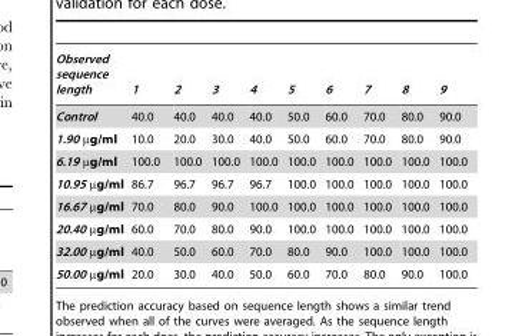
<table><thead><tr><td>Observed sequence length</td><td>1</td><td>2</td><td>3</td><td>4</td><td>5</td><td>6</td><td>7</td><td>8</td><td>9</td></tr></thead><tbody><tr><td>Control</td><td>40.0</td><td>40.0</td><td>40.0</td><td>40.0</td><td>50.0</td><td>60.0</td><td>70.0</td><td>80.0</td><td>90.0</td></tr><tr><td>1.90 µg/ml</td><td>10.0</td><td>20.0</td><td>30.0</td><td>40.0</td><td>50.0</td><td>60.0</td><td>70.0</td><td>80.0</td><td>90.0</td></tr><tr><td>6.19 µg/ml</td><td>100.0</td><td>100.0</td><td>100.0</td><td>100.0</td><td>100.0</td><td>100.0</td><td>100.0</td><td>100.0</td><td>100.0</td></tr><tr><td>10.95 µg/ml</td><td>86.7</td><td>96.7</td><td>96.7</td><td>96.7</td><td>100.0</td><td>100.0</td><td>100.0</td><td>100.0</td><td>100.0</td></tr><tr><td>16.67 µg/ml</td><td>70.0</td><td>80.0</td><td>90.0</td><td>100.0</td><td>100.0</td><td>100.0</td><td>100.0</td><td>100.0</td><td>100.0</td></tr><tr><td>20.40 µg/ml</td><td>60.0</td><td>70.0</td><td>80.0</td><td>90.0</td><td>100.0</td><td>100.0</td><td>100.0</td><td>100.0</td><td>100.0</td></tr><tr><td>32.00 µg/ml</td><td>40.0</td><td>50.0</td><td>60.0</td><td>70.0</td><td>80.0</td><td>90.0</td><td>100.0</td><td>100.0</td><td>100.0</td></tr><tr><td>50.00 µg/ml</td><td>20.0</td><td>30.0</td><td>40.0</td><td>50.0</td><td>60.0</td><td>70.0</td><td>80.0</td><td>90.0</td><td>100.0</td></tr></tbody></table>